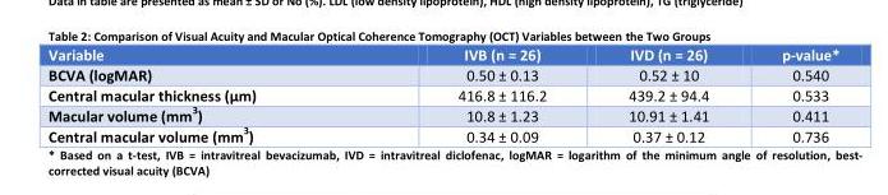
<table><thead><tr><td>Variable</td><td>IVB (n = 26)</td><td>IVD (n = 26)</td><td>p-value*</td></tr></thead><tbody><tr><td>BCVA (logMAR)</td><td>0.50 ± 0.13</td><td>0.52 ± 10</td><td>0.540</td></tr><tr><td>Central macular thickness (µm)</td><td>416.8 ± 116.2</td><td>439.2 ± 94.4</td><td>0.533</td></tr><tr><td>Macular volume (mm<sup>3</sup>)</td><td>10.8 ± 1.23</td><td>10.91 ± 1.41</td><td>0.411</td></tr><tr><td>Central macular volume (mm<sup>3</sup>)</td><td>0.34 ± 0.09</td><td>0.37 ± 0.12</td><td>0.736</td></tr></tbody></table>